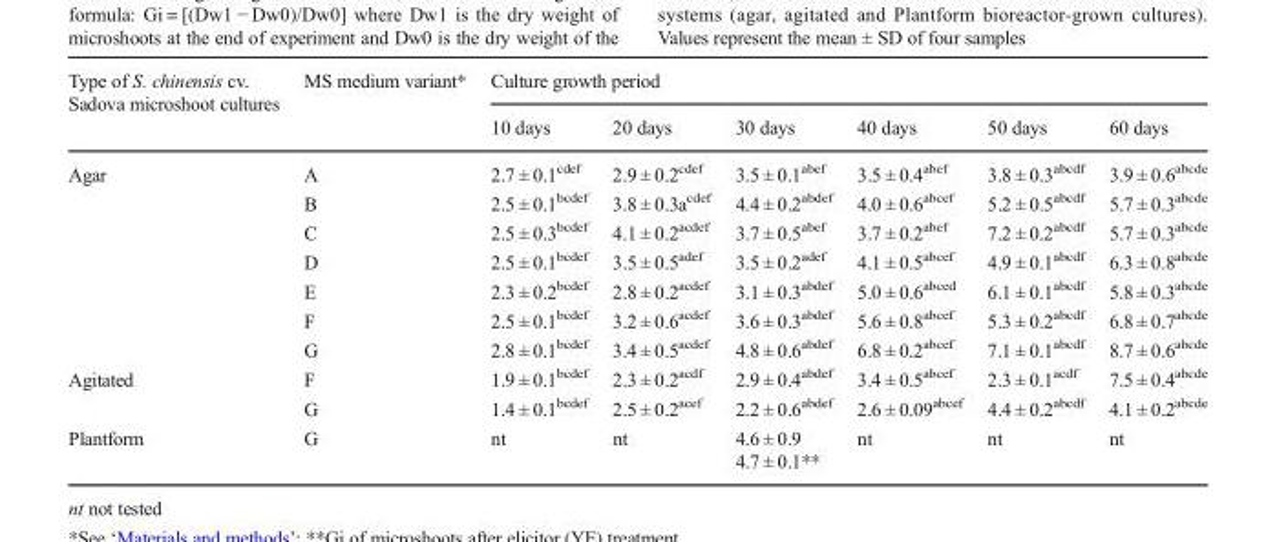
<table><thead><tr><td rowspan="2">Type of S. chinensis cv. Sadova microshoot cultures</td><td rowspan="2">MS medium variant*</td><td colspan="6">Culture growth period</td></tr><tr><td>10 days</td><td>20 days</td><td>30 days</td><td>40 days</td><td>50 days</td><td>60 days</td></tr></thead><tbody><tr><td rowspan="7">Agar</td><td>A</td><td>2.7 ± 0.1<sup>cdef</sup></td><td>2.9 ± 0.2<sup>cdef</sup></td><td>3.5 ± 0.1<sup>abef</sup></td><td>3.5 ± 0.4<sup>abef</sup></td><td>3.8 ± 0.3<sup>abcdf</sup></td><td>3.9 ± 0.6<sup>abcde</sup></td></tr><tr><td>B</td><td>2.5 ± 0.1<sup>bcdef</sup></td><td>3.8 ± 0.3a<sup>cdef</sup></td><td>4.4 ± 0.2<sup>abdef</sup></td><td>4.0 ± 0.6<sup>abcef</sup></td><td>5.2 ± 0.5<sup>abcdf</sup></td><td>5.7 ± 0.3<sup>abcde</sup></td></tr><tr><td>C</td><td>2.5 ± 0.3<sup>bcdef</sup></td><td>4.1 ± 0.2<sup>acdef</sup></td><td>3.7 ± 0.5<sup>abef</sup></td><td>3.7 ± 0.2<sup>abef</sup></td><td>7.2 ± 0.2<sup>abcdf</sup></td><td>5.7 ± 0.3<sup>abcde</sup></td></tr><tr><td>D</td><td>2.5 ± 0.1<sup>bcdef</sup></td><td>3.5 ± 0.5<sup>adef</sup></td><td>3.5 ± 0.2<sup>adef</sup></td><td>4.1 ± 0.5<sup>abcef</sup></td><td>4.9 ± 0.1<sup>abcdf</sup></td><td>6.3 ± 0.8<sup>abcde</sup></td></tr><tr><td>E</td><td>2.3 ± 0.2<sup>bcdef</sup></td><td>2.8 ± 0.2<sup>acdef</sup></td><td>3.1 ± 0.3<sup>abdef</sup></td><td>5.0 ± 0.6<sup>abced</sup></td><td>6.1 ± 0.1<sup>abcdf</sup></td><td>5.8 ± 0.3<sup>abcde</sup></td></tr><tr><td>F</td><td>2.5 ± 0.1<sup>bcdef</sup></td><td>3.2 ± 0.6<sup>acdef</sup></td><td>3.6 ± 0.3<sup>abdef</sup></td><td>5.6 ± 0.8<sup>abcef</sup></td><td>5.3 ± 0.2<sup>abcdf</sup></td><td>6.8 ± 0.7<sup>abcde</sup></td></tr><tr><td>G</td><td>2.8 ± 0.1<sup>bcdef</sup></td><td>3.4 ± 0.5<sup>acdef</sup></td><td>4.8 ± 0.6<sup>abdef</sup></td><td>6.8 ± 0.2<sup>abcef</sup></td><td>7.1 ± 0.1<sup>abcdf</sup></td><td>8.7 ± 0.6<sup>abcde</sup></td></tr><tr><td rowspan="2">Agitated</td><td>F</td><td>1.9 ± 0.1<sup>bcdef</sup></td><td>2.3 ± 0.2<sup>acdf</sup></td><td>2.9 ± 0.4<sup>abdef</sup></td><td>3.4 ± 0.5<sup>abcef</sup></td><td>2.3 ± 0.1<sup>acdf</sup></td><td>7.5 ± 0.4<sup>abcde</sup></td></tr><tr><td>G</td><td>1.4 ± 0.1<sup>bcdef</sup></td><td>2.5 ± 0.2<sup>acef</sup></td><td>2.2 ± 0.6<sup>abdef</sup></td><td>2.6 ± 0.09<sup>abcef</sup></td><td>4.4 ± 0.2<sup>abcdf</sup></td><td>4.1 ± 0.2<sup>abcde</sup></td></tr><tr><td>Plantform</td><td>G</td><td>nt</td><td>nt</td><td>4.6 ± 0.9 4.7 ± 0.1**</td><td>nt</td><td>nt</td><td>nt</td></tr></tbody></table>